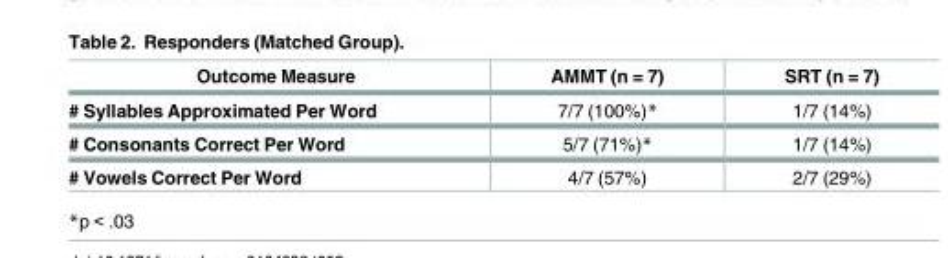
<table><thead><tr><td>Outcome Measure</td><td>AMMT (n = 7)</td><td>SRT (n = 7)</td></tr></thead><tbody><tr><td># Syllables Approximated Per Word</td><td>7/7 (100%)*</td><td>1/7 (14%)</td></tr><tr><td># Consonants Correct Per Word</td><td>5/7 (71%)*</td><td>1/7 (14%)</td></tr><tr><td># Vowels Correct Per Word</td><td>4/7 (57%)</td><td>2/7 (29%)</td></tr></tbody></table>